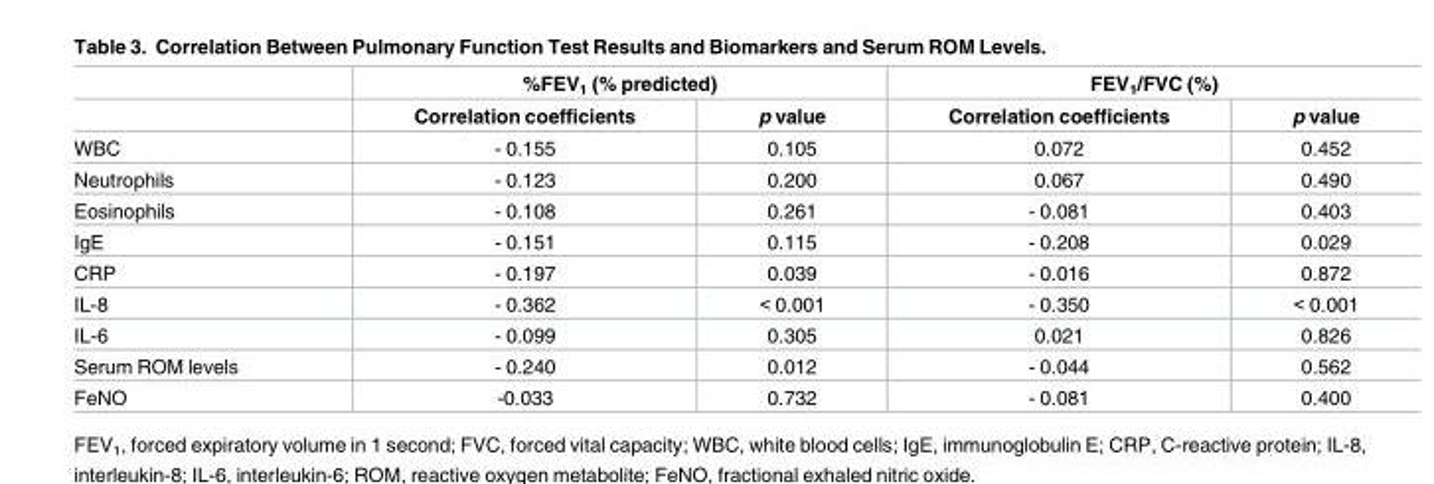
<table><thead><tr><td rowspan="2"></td><td colspan="2">%FEV<sub>1</sub> (% predicted)</td><td colspan="2">FEV<sub>1</sub>/FVC (%)</td></tr><tr><td>Correlation coefficients</td><td>p value</td><td>Correlation coefficients</td><td>p value</td></tr></thead><tbody><tr><td>WBC</td><td>- 0.155</td><td>0.105</td><td>0.072</td><td>0.452</td></tr><tr><td>Neutrophils</td><td>- 0.123</td><td>0.200</td><td>0.067</td><td>0.490</td></tr><tr><td>Eosinophils</td><td>- 0.108</td><td>0.261</td><td>- 0.081</td><td>0.403</td></tr><tr><td>IgE</td><td>- 0.151</td><td>0.115</td><td>- 0.208</td><td>0.029</td></tr><tr><td>CRP</td><td>- 0.197</td><td>0.039</td><td>- 0.016</td><td>0.872</td></tr><tr><td>IL-8</td><td>- 0.362</td><td>&lt; 0.001</td><td>- 0.350</td><td>&lt; 0.001</td></tr><tr><td>IL-6</td><td>- 0.099</td><td>0.305</td><td>0.021</td><td>0.826</td></tr><tr><td>Serum ROM levels</td><td>- 0.240</td><td>0.012</td><td>- 0.044</td><td>0.562</td></tr><tr><td>FeNO</td><td>-0.033</td><td>0.732</td><td>- 0.081</td><td>0.400</td></tr></tbody></table>